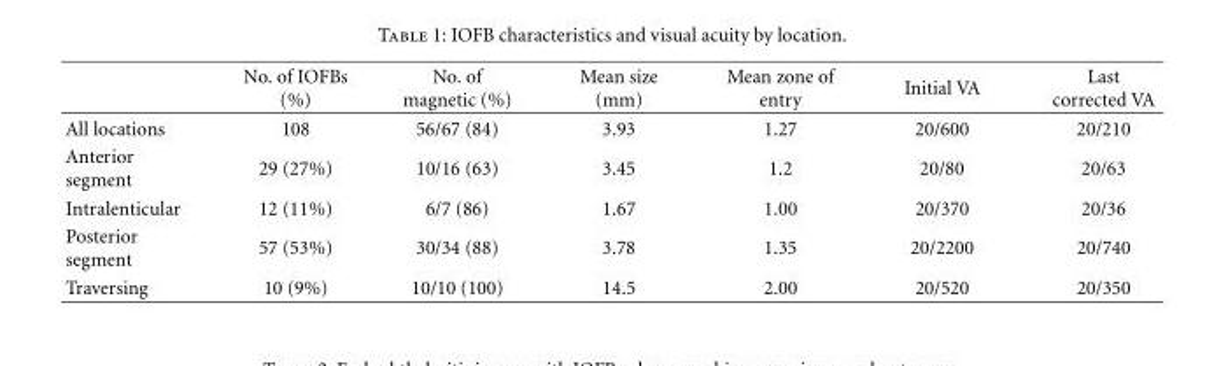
<table><thead><tr><td></td><td>No. of IOFBs (%)</td><td>No. of magnetic (%)</td><td>Mean size (mm)</td><td>Mean zone of entry</td><td>Initial VA</td><td>Last corrected VA</td></tr></thead><tbody><tr><td>All locations</td><td>108</td><td>56/67 (84)</td><td>3.93</td><td>1.27</td><td>20/600</td><td>20/210</td></tr><tr><td>Anterior segment</td><td>29 (27%)</td><td>10/16 (63)</td><td>3.45</td><td>1.2</td><td>20/80</td><td>20/63</td></tr><tr><td>Intralenticular</td><td>12 (11%)</td><td>6/7 (86)</td><td>1.67</td><td>1.00</td><td>20/370</td><td>20/36</td></tr><tr><td>Posterior segment</td><td>57 (53%)</td><td>30/34 (88)</td><td>3.78</td><td>1.35</td><td>20/2200</td><td>20/740</td></tr><tr><td>Traversing</td><td>10 (9%)</td><td>10/10 (100)</td><td>14.5</td><td>2.00</td><td>20/520</td><td>20/350</td></tr></tbody></table>